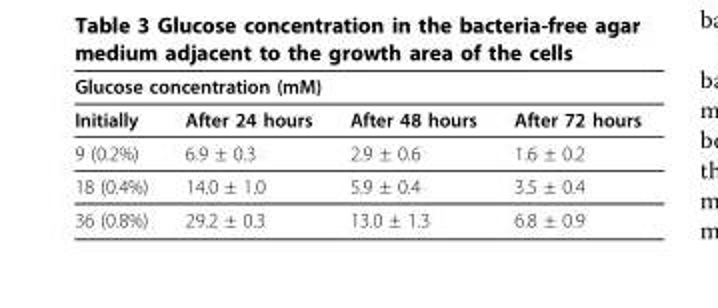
<table><thead><tr><td colspan="4">Glucose concentration (mM)</td></tr><tr><td>Initially</td><td>After 24 hours</td><td>After 48 hours</td><td>After 72 hours</td></tr></thead><tbody><tr><td>9 (0.2%)</td><td>6.9 ± 0.3</td><td>2.9 ± 0.6</td><td>1.6 ± 0.2</td></tr><tr><td>18 (0.4%)</td><td>14.0 ± 1.0</td><td>5.9 ± 0.4</td><td>3.5 ± 0.4</td></tr><tr><td>36 (0.8%)</td><td>29.2 ± 0.3</td><td>13.0 ± 1.3</td><td>6.8 ± 0.9</td></tr></tbody></table>